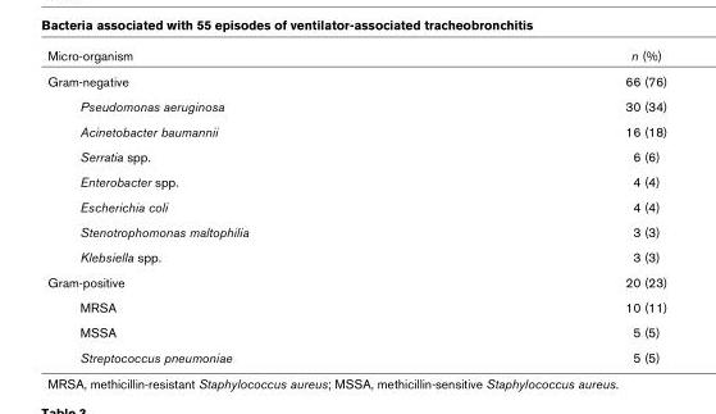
<table><thead><tr><td>Micro-organism</td><td>n (%)</td></tr></thead><tbody><tr><td>Gram-negative</td><td>66 (76)</td></tr><tr><td>Pseudomonas aeruginosa</td><td>30 (34)</td></tr><tr><td>Acinetobacter baumannii</td><td>16 (18)</td></tr><tr><td>Serratia spp.</td><td>6 (6)</td></tr><tr><td>Enterobacter spp.</td><td>4 (4)</td></tr><tr><td>Escherichia coli</td><td>4 (4)</td></tr><tr><td>Stenotrophomonas maltophilia</td><td>3 (3)</td></tr><tr><td>Klebsiella spp.</td><td>3 (3)</td></tr><tr><td>Gram-positive</td><td>20 (23)</td></tr><tr><td>MRSA</td><td>10 (11)</td></tr><tr><td>MSSA</td><td>5 (5)</td></tr><tr><td>Streptococcus pneumoniae</td><td>5 (5)</td></tr></tbody></table>